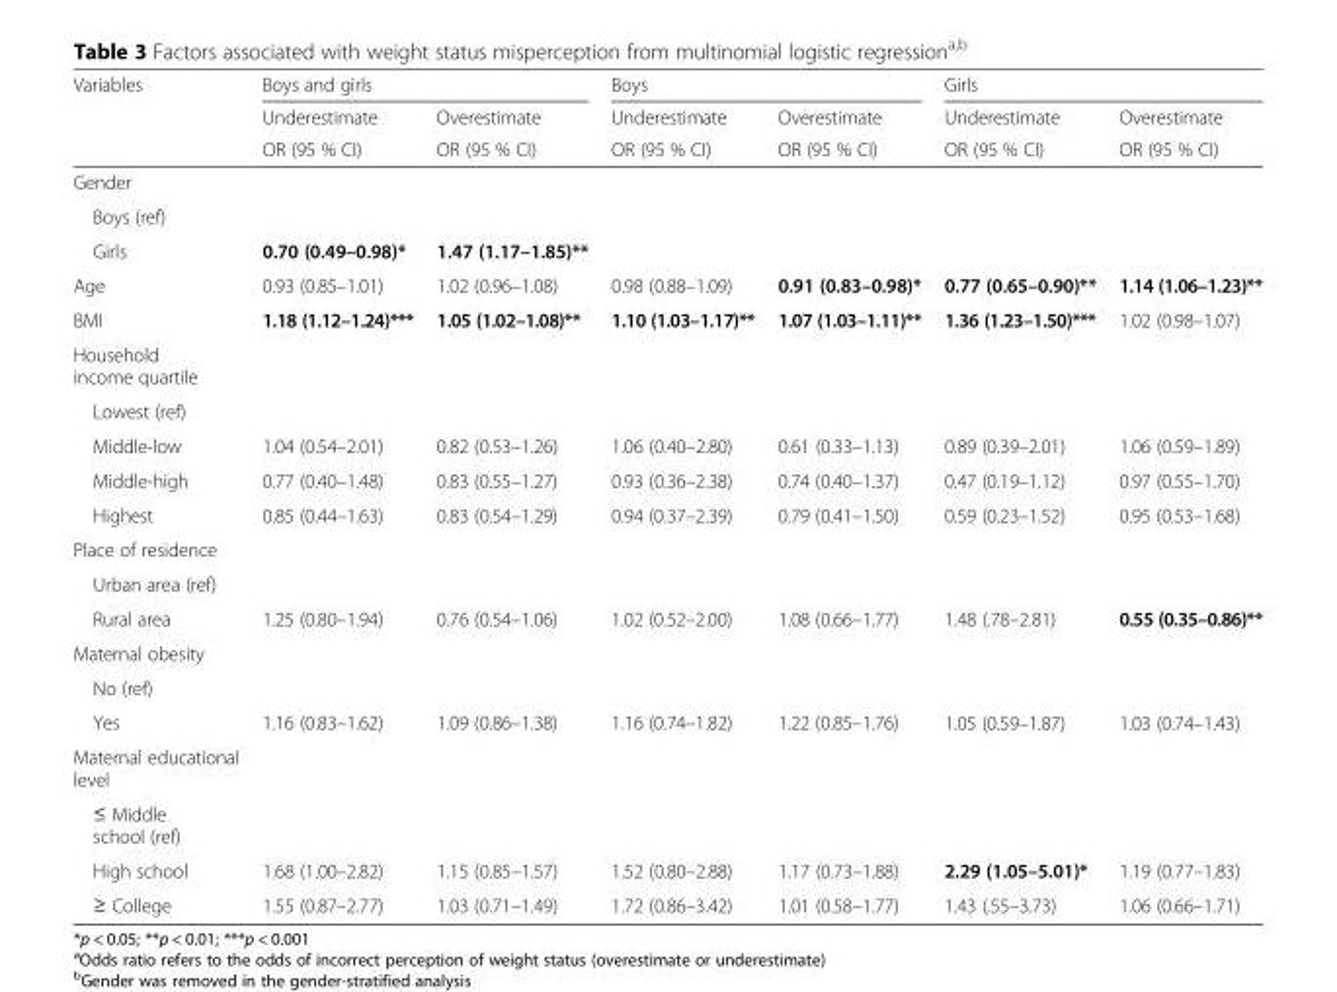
<table><thead><tr><td rowspan="3">Variables</td><td colspan="2">Boys and girls</td><td colspan="2">Boys</td><td colspan="2">Girls</td></tr><tr><td rowspan="2">Underestimate OR (95 % CI)</td><td rowspan="2">Overestimate OR (95 % CI)</td><td rowspan="2">Underestimate OR (95 % CI)</td><td rowspan="2">Overestimate OR (95 % CI)</td><td rowspan="2">Underestimate OR (95 % CI)</td><td rowspan="2">Overestimate OR (95 % CI)</td></tr><tr></tr></thead><tbody><tr><td colspan="7">Gender</td></tr><tr><td colspan="7">Boys (ref)</td></tr><tr><td>Girls</td><td>0.70 (0.49–0.98)*</td><td>1.47 (1.17–1.85)**</td><td></td><td></td><td></td><td></td></tr><tr><td>Age</td><td>0.93 (0.85–1.01)</td><td>1.02 (0.96–1.08)</td><td>0.98 (0.88–1.09)</td><td>0.91 (0.83–0.98)*</td><td>0.77 (0.65–0.90)**</td><td>1.14 (1.06–1.23)**</td></tr><tr><td>BMI</td><td>1.18 (1.12–1.24)***</td><td>1.05 (1.02–1.08)**</td><td>1.10 (1.03–1.17)**</td><td>1.07 (1.03–1.11)**</td><td>1.36 (1.23–1.50)***</td><td>1.02 (0.98–1.07)</td></tr><tr><td colspan="7">Household income quartile</td></tr><tr><td colspan="7">Lowest (ref)</td></tr><tr><td>Middle-low</td><td>1.04 (0.54–2.01)</td><td>0.82 (0.53–1.26)</td><td>1.06 (0.40–2.80)</td><td>0.61 (0.33–1.13)</td><td>0.89 (0.39–2.01)</td><td>1.06 (0.59–1.89)</td></tr><tr><td>Middle-high</td><td>0.77 (0.40–1.48)</td><td>0.83 (0.55–1.27)</td><td>0.93 (0.36–2.38)</td><td>0.74 (0.40–1.37)</td><td>0.47 (0.19–1.12)</td><td>0.97 (0.55–1.70)</td></tr><tr><td>Highest</td><td>0.85 (0.44–1.63)</td><td>0.83 (0.54–1.29)</td><td>0.94 (0.37–2.39)</td><td>0.79 (0.41–1.50)</td><td>0.59 (0.23–1.52)</td><td>0.95 (0.53–1.68)</td></tr><tr><td colspan="7">Place of residence</td></tr><tr><td colspan="7">Urban area (ref)</td></tr><tr><td>Rural area</td><td>1.25 (0.80–1.94)</td><td>0.76 (0.54–1.06)</td><td>1.02 (0.52–2.00)</td><td>1.08 (0.66–1.77)</td><td>1.48 (.78–2.81)</td><td>0.55 (0.35–0.86)**</td></tr><tr><td colspan="7">Maternal obesity</td></tr><tr><td colspan="7">No (ref)</td></tr><tr><td>Yes</td><td>1.16 (0.83–1.62)</td><td>1.09 (0.86–1.38)</td><td>1.16 (0.74–1.82)</td><td>1.22 (0.85–1.76)</td><td>1.05 (0.59–1.87)</td><td>1.03 (0.74–1.43)</td></tr><tr><td colspan="7">Maternal educational level</td></tr><tr><td colspan="7">≤ Middle school (ref)</td></tr><tr><td>High school</td><td>1.68 (1.00–2.82)</td><td>1.15 (0.85–1.57)</td><td>1.52 (0.80–2.88)</td><td>1.17 (0.73–1.88)</td><td>2.29 (1.05–5.01)*</td><td>1.19 (0.77–1.83)</td></tr><tr><td>≥ College</td><td>1.55 (0.87–2.77)</td><td>1.03 (0.71–1.49)</td><td>1.72 (0.86–3.42)</td><td>1.01 (0.58–1.77)</td><td>1.43 (.55–3.73)</td><td>1.06 (0.66–1.71)</td></tr></tbody></table>